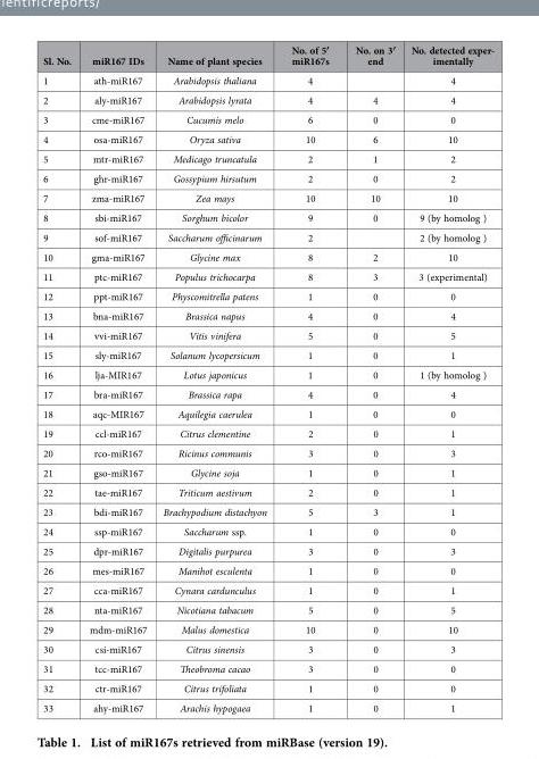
<table><thead><tr><td>Sl. No.</td><td>miR167 IDs</td><td>Name of plant species</td><td>No. of 5′ miR167s</td><td>No. on 3′ end</td><td>No. detected exper- imentally</td></tr></thead><tbody><tr><td>1</td><td>ath-miR167</td><td>Arabidopsis thaliana</td><td>4</td><td></td><td>4</td></tr><tr><td>2</td><td>aly-miR167</td><td>Arabidopsis lyrata</td><td>4</td><td>4</td><td>4</td></tr><tr><td>3</td><td>cme-miR167</td><td>Cucumis melo</td><td>6</td><td>0</td><td>0</td></tr><tr><td>4</td><td>osa-miR167</td><td>Oryza sativa</td><td>10</td><td>6</td><td>10</td></tr><tr><td>5</td><td>mtr-miR167</td><td>Medicago truncatula</td><td>2</td><td>1</td><td>2</td></tr><tr><td>6</td><td>ghr-miR167</td><td>Gossypium hirsutum</td><td>2</td><td>0</td><td>2</td></tr><tr><td>7</td><td>zma-miR167</td><td>Zea mays</td><td>10</td><td>10</td><td>10</td></tr><tr><td>8</td><td>sbi-miR167</td><td>Sorghum bicolor</td><td>9</td><td>0</td><td>9 (by homolog )</td></tr><tr><td>9</td><td>sof-miR167</td><td>Saccharum officinarum</td><td>2</td><td></td><td>2 (by homolog )</td></tr><tr><td>10</td><td>gma-miR167</td><td>Glycine max</td><td>8</td><td>2</td><td>10</td></tr><tr><td>11</td><td>ptc-miR167</td><td>Populus trichocarpa</td><td>8</td><td>3</td><td>3 (experimental)</td></tr><tr><td>12</td><td>ppt-miR167</td><td>Physcomitrella patens</td><td>1</td><td>0</td><td>0</td></tr><tr><td>13</td><td>bna-miR167</td><td>Brassica napus</td><td>4</td><td>0</td><td>4</td></tr><tr><td>14</td><td>vvi-miR167</td><td>Vitis vinifera</td><td>5</td><td>0</td><td>5</td></tr><tr><td>15</td><td>sly-miR167</td><td>Solanum lycopersicum</td><td>1</td><td>0</td><td>1</td></tr><tr><td>16</td><td>lja-MIR167</td><td>Lotus japonicus</td><td>1</td><td>0</td><td>1 (by homolog )</td></tr><tr><td>17</td><td>bra-miR167</td><td>Brassica rapa</td><td>4</td><td>0</td><td>4</td></tr><tr><td>18</td><td>aqc-MIR167</td><td>Aquilegia caerulea</td><td>1</td><td>0</td><td>0</td></tr><tr><td>19</td><td>ccl-miR167</td><td>Citrus clementine</td><td>2</td><td>0</td><td>1</td></tr><tr><td>20</td><td>rco-miR167</td><td>Ricinus communis</td><td>3</td><td>0</td><td>3</td></tr><tr><td>21</td><td>gso-miR167</td><td>Glycine soja</td><td>1</td><td>0</td><td>1</td></tr><tr><td>22</td><td>tae-miR167</td><td>Triticum aestivum</td><td>2</td><td>0</td><td>1</td></tr><tr><td>23</td><td>bdi-miR167</td><td>Brachypodium distachyon</td><td>5</td><td>3</td><td>1</td></tr><tr><td>24</td><td>ssp-miR167</td><td>Saccharum ssp.</td><td>1</td><td>0</td><td>0</td></tr><tr><td>25</td><td>dpr-miR167</td><td>Digitalis purpurea</td><td>3</td><td>0</td><td>3</td></tr><tr><td>26</td><td>mes-miR167</td><td>Manihot esculenta</td><td>1</td><td>0</td><td>0</td></tr><tr><td>27</td><td>cca-miR167</td><td>Cynara cardunculus</td><td>1</td><td>0</td><td>1</td></tr><tr><td>28</td><td>nta-miR167</td><td>Nicotiana tabacum</td><td>5</td><td>0</td><td>5</td></tr><tr><td>29</td><td>mdm-miR167</td><td>Malus domestica</td><td>10</td><td>0</td><td>10</td></tr><tr><td>30</td><td>csi-miR167</td><td>Citrus sinensis</td><td>3</td><td>0</td><td>3</td></tr><tr><td>31</td><td>tcc-miR167</td><td>Theobroma cacao</td><td>3</td><td>0</td><td>0</td></tr><tr><td>32</td><td>ctr-miR167</td><td>Citrus trifoliata</td><td>1</td><td>0</td><td>0</td></tr><tr><td>33</td><td>ahy-miR167</td><td>Arachis hypogaea</td><td>1</td><td>0</td><td>1</td></tr></tbody></table>